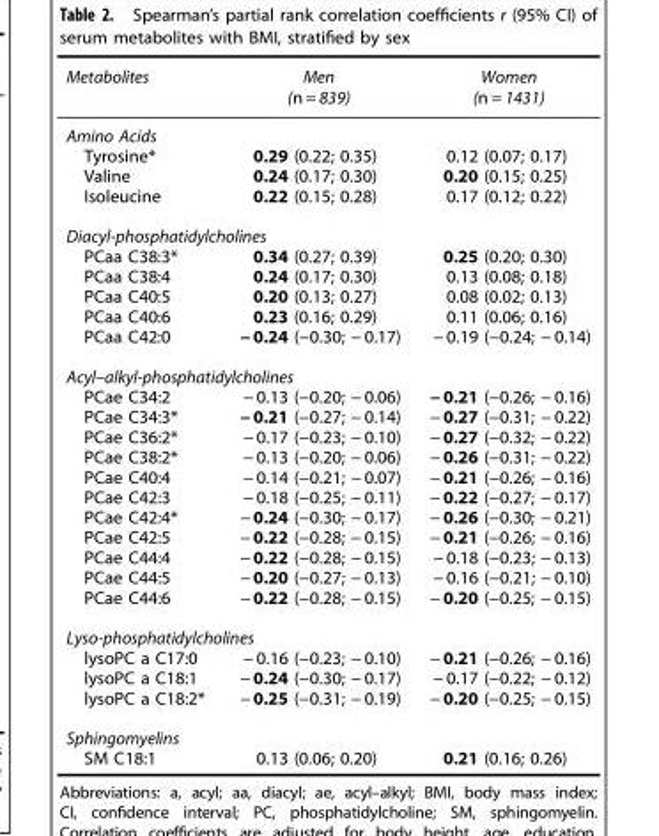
<table><thead><tr><td rowspan="2">Metabolites</td><td rowspan="2">Men (n = 839)</td><td rowspan="2">Women (n = 1431)</td></tr><tr></tr></thead><tbody><tr><td colspan="3">Amino Acids</td></tr><tr><td>Tyrosine*</td><td>0.29 (0.22; 0.35)</td><td>0.12 (0.07; 0.17)</td></tr><tr><td>Valine</td><td>0.24 (0.17; 0.30)</td><td>0.20 (0.15; 0.25)</td></tr><tr><td>Isoleucine</td><td>0.22 (0.15; 0.28)</td><td>0.17 (0.12; 0.22)</td></tr><tr><td colspan="3">Diacyl-phosphatidylcholines</td></tr><tr><td>PCaa C38:3*</td><td>0.34 (0.27; 0.39)</td><td>0.25 (0.20; 0.30)</td></tr><tr><td>PCaa C38:4</td><td>0.24 (0.17; 0.30)</td><td>0.13 (0.08; 0.18)</td></tr><tr><td>PCaa C40:5</td><td>0.20 (0.13; 0.27)</td><td>0.08 (0.02; 0.13)</td></tr><tr><td>PCaa C40:6</td><td>0.23 (0.16; 0.29)</td><td>0.11 (0.06; 0.16)</td></tr><tr><td>PCaa C42:0</td><td>− 0.24 (−0.30; − 0.17)</td><td>− 0.19 (−0.24; − 0.14)</td></tr><tr><td colspan="3">Acyl–alkyl-phosphatidylcholines</td></tr><tr><td>PCae C34:2</td><td>− 0.13 (−0.20; − 0.06)</td><td>− 0.21 (−0.26; − 0.16)</td></tr><tr><td>PCae C34:3*</td><td>− 0.21 (−0.27; − 0.14)</td><td>− 0.27 (−0.31; − 0.22)</td></tr><tr><td>PCae C36:2*</td><td>− 0.17 (−0.23; − 0.10)</td><td>− 0.27 (−0.32; − 0.22)</td></tr><tr><td>PCae C38:2*</td><td>− 0.13 (−0.20; − 0.06)</td><td>− 0.26 (−0.31; − 0.22)</td></tr><tr><td>PCae C40:4</td><td>− 0.14 (−0.21; − 0.07)</td><td>− 0.21 (−0.26; − 0.16)</td></tr><tr><td>PCae C42:3</td><td>− 0.18 (−0.25; − 0.11)</td><td>− 0.22 (−0.27; − 0.17)</td></tr><tr><td>PCae C42:4*</td><td>− 0.24 (−0.30; − 0.17)</td><td>− 0.26 (−0.30; − 0.21)</td></tr><tr><td>PCae C42:5</td><td>− 0.22 (−0.28; − 0.15)</td><td>− 0.21 (−0.26; − 0.16)</td></tr><tr><td>PCae C44:4</td><td>− 0.22 (−0.28; − 0.15)</td><td>− 0.18 (−0.23; − 0.13)</td></tr><tr><td>PCae C44:5</td><td>− 0.20 (−0.27; − 0.13)</td><td>− 0.16 (−0.21; − 0.10)</td></tr><tr><td>PCae C44:6</td><td>− 0.22 (−0.28; − 0.15)</td><td>− 0.20 (−0.25; − 0.15)</td></tr><tr><td colspan="3">Lyso-phosphatidylcholines</td></tr><tr><td>lysoPC a C17:0</td><td>− 0.16 (−0.23; − 0.10)</td><td>− 0.21 (−0.26; − 0.16)</td></tr><tr><td>lysoPC a C18:1</td><td>− 0.24 (−0.30; − 0.17)</td><td>− 0.17 (−0.22; − 0.12)</td></tr><tr><td>lysoPC a C18:2*</td><td>− 0.25 (−0.31; − 0.19)</td><td>− 0.20 (−0.25; − 0.15)</td></tr><tr><td colspan="3">Sphingomyelins</td></tr><tr><td>SM C18:1</td><td>0.13 (0.06; 0.20)</td><td>0.21 (0.16; 0.26)</td></tr></tbody></table>